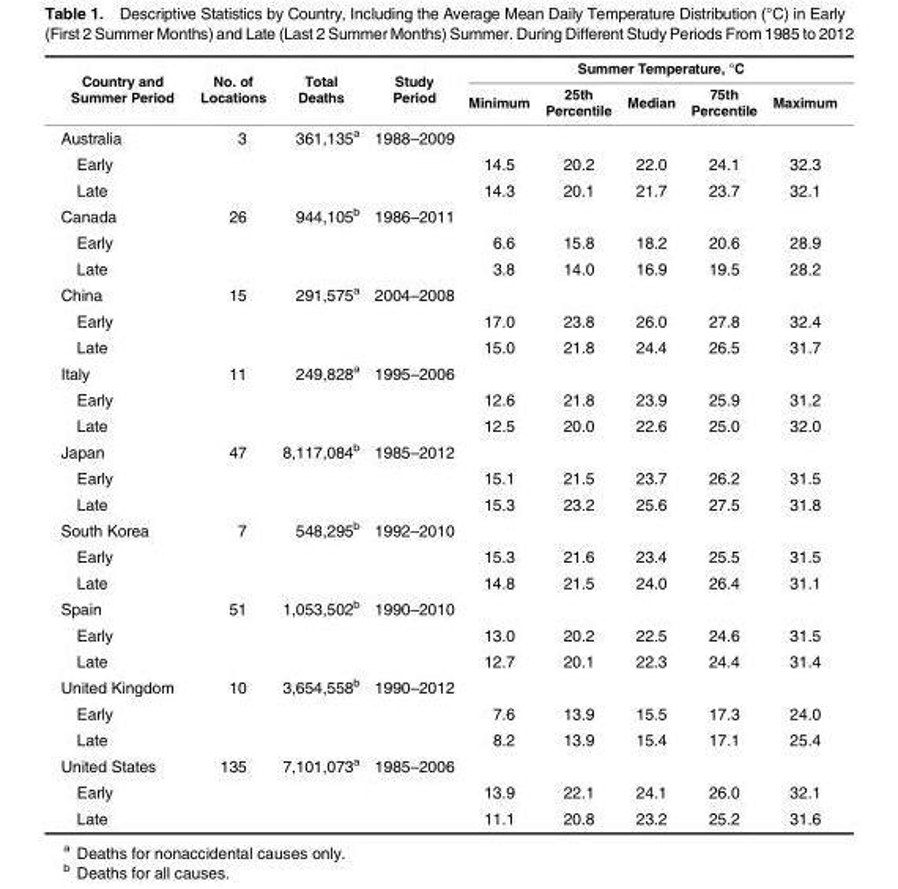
<table><thead><tr><td rowspan="2">Country and Summer Period</td><td rowspan="2">No. of Locations</td><td rowspan="2">Total Deaths</td><td rowspan="2">Study Period</td><td colspan="5">Summer Temperature, °C</td></tr><tr><td>Minimum</td><td>25th Percentile</td><td>Median</td><td>75th Percentile</td><td>Maximum</td></tr></thead><tbody><tr><td>Australia</td><td>3</td><td>361,135<sup>a</sup></td><td>1988–2009</td><td></td><td></td><td></td><td></td><td></td></tr><tr><td>Early</td><td></td><td></td><td></td><td>14.5</td><td>20.2</td><td>22.0</td><td>24.1</td><td>32.3</td></tr><tr><td>Late</td><td></td><td></td><td></td><td>14.3</td><td>20.1</td><td>21.7</td><td>23.7</td><td>32.1</td></tr><tr><td>Canada</td><td>26</td><td>944,105<sup>b</sup></td><td>1986–2011</td><td></td><td></td><td></td><td></td><td></td></tr><tr><td>Early</td><td></td><td></td><td></td><td>6.6</td><td>15.8</td><td>18.2</td><td>20.6</td><td>28.9</td></tr><tr><td>Late</td><td></td><td></td><td></td><td>3.8</td><td>14.0</td><td>16.9</td><td>19.5</td><td>28.2</td></tr><tr><td>China</td><td>15</td><td>291,575<sup>a</sup></td><td>2004–2008</td><td></td><td></td><td></td><td></td><td></td></tr><tr><td>Early</td><td></td><td></td><td></td><td>17.0</td><td>23.8</td><td>26.0</td><td>27.8</td><td>32.4</td></tr><tr><td>Late</td><td></td><td></td><td></td><td>15.0</td><td>21.8</td><td>24.4</td><td>26.5</td><td>31.7</td></tr><tr><td>Italy</td><td>11</td><td>249,828<sup>a</sup></td><td>1995–2006</td><td></td><td></td><td></td><td></td><td></td></tr><tr><td>Early</td><td></td><td></td><td></td><td>12.6</td><td>21.8</td><td>23.9</td><td>25.9</td><td>31.2</td></tr><tr><td>Late</td><td></td><td></td><td></td><td>12.5</td><td>20.0</td><td>22.6</td><td>25.0</td><td>32.0</td></tr><tr><td>Japan</td><td>47</td><td>8,117,084<sup>b</sup></td><td>1985–2012</td><td></td><td></td><td></td><td></td><td></td></tr><tr><td>Early</td><td></td><td></td><td></td><td>15.1</td><td>21.5</td><td>23.7</td><td>26.2</td><td>31.5</td></tr><tr><td>Late</td><td></td><td></td><td></td><td>15.3</td><td>23.2</td><td>25.6</td><td>27.5</td><td>31.8</td></tr><tr><td>South Korea</td><td>7</td><td>548,295<sup>b</sup></td><td>1992–2010</td><td></td><td></td><td></td><td></td><td></td></tr><tr><td>Early</td><td></td><td></td><td></td><td>15.3</td><td>21.6</td><td>23.4</td><td>25.5</td><td>31.5</td></tr><tr><td>Late</td><td></td><td></td><td></td><td>14.8</td><td>21.5</td><td>24.0</td><td>26.4</td><td>31.1</td></tr><tr><td>Spain</td><td>51</td><td>1,053,502<sup>b</sup></td><td>1990–2010</td><td></td><td></td><td></td><td></td><td></td></tr><tr><td>Early</td><td></td><td></td><td></td><td>13.0</td><td>20.2</td><td>22.5</td><td>24.6</td><td>31.5</td></tr><tr><td>Late</td><td></td><td></td><td></td><td>12.7</td><td>20.1</td><td>22.3</td><td>24.4</td><td>31.4</td></tr><tr><td>United Kingdom</td><td>10</td><td>3,654,558<sup>b</sup></td><td>1990–2012</td><td></td><td></td><td></td><td></td><td></td></tr><tr><td>Early</td><td></td><td></td><td></td><td>7.6</td><td>13.9</td><td>15.5</td><td>17.3</td><td>24.0</td></tr><tr><td>Late</td><td></td><td></td><td></td><td>8.2</td><td>13.9</td><td>15.4</td><td>17.1</td><td>25.4</td></tr><tr><td>United States</td><td>135</td><td>7,101,073<sup>a</sup></td><td>1985–2006</td><td></td><td></td><td></td><td></td><td></td></tr><tr><td>Early</td><td></td><td></td><td></td><td>13.9</td><td>22.1</td><td>24.1</td><td>26.0</td><td>32.1</td></tr><tr><td>Late</td><td></td><td></td><td></td><td>11.1</td><td>20.8</td><td>23.2</td><td>25.2</td><td>31.6</td></tr></tbody></table>